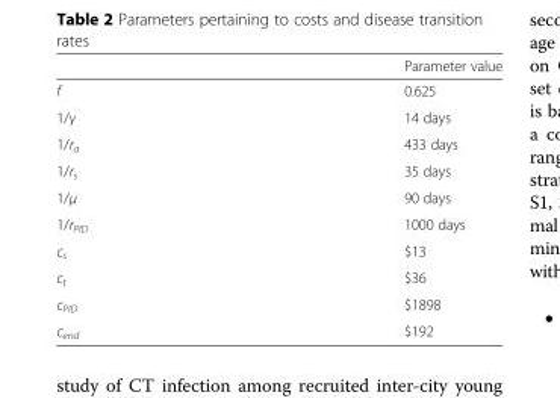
<table><thead><tr><td></td><td>Parameter value</td></tr></thead><tbody><tr><td>f</td><td>0.625</td></tr><tr><td>1/γ</td><td>14 days</td></tr><tr><td>1/r<sub>a</sub></td><td>433 days</td></tr><tr><td>1/r<sub>s</sub></td><td>35 days</td></tr><tr><td>1/μ</td><td>90 days</td></tr><tr><td>1/r<sub>PID</sub></td><td>1000 days</td></tr><tr><td>c<sub>s</sub></td><td>$13</td></tr><tr><td>c<sub>t</sub></td><td>$36</td></tr><tr><td>c<sub>PID</sub></td><td>$1898</td></tr><tr><td>c<sub>end</sub></td><td>$192</td></tr></tbody></table>